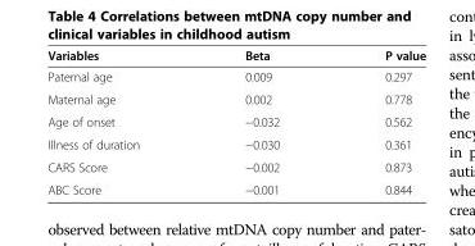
<table><thead><tr><td>Variables</td><td>Beta</td><td>P value</td></tr></thead><tbody><tr><td>Paternal age</td><td>0.009</td><td>0.297</td></tr><tr><td>Maternal age</td><td>0.002</td><td>0.778</td></tr><tr><td>Age of onset</td><td>−0.032</td><td>0.562</td></tr><tr><td>Illness of duration</td><td>−0.030</td><td>0.361</td></tr><tr><td>CARS Score</td><td>−0.002</td><td>0.873</td></tr><tr><td>ABC Score</td><td>−0.001</td><td>0.844</td></tr></tbody></table>